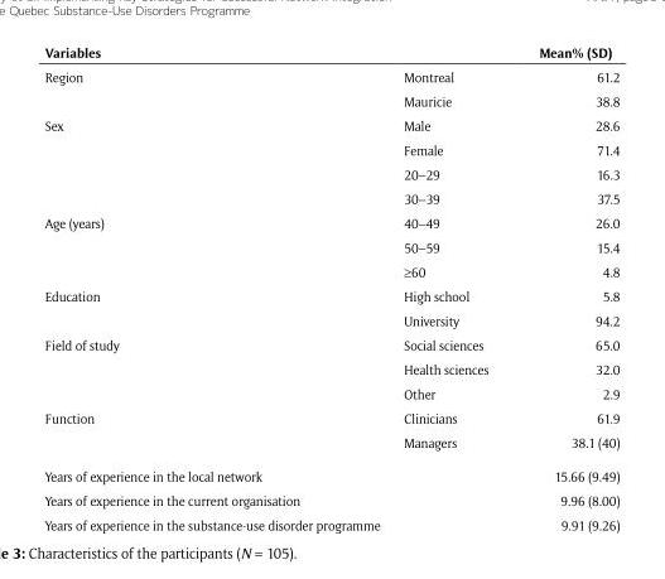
<table><thead><tr><td>Variables</td><td></td><td>Mean% (SD)</td></tr></thead><tbody><tr><td rowspan="2">Region</td><td>Montreal</td><td>61.2</td></tr><tr><td>Mauricie</td><td>38.8</td></tr><tr><td rowspan="4">Sex</td><td>Male</td><td>28.6</td></tr><tr><td>Female</td><td>71.4</td></tr><tr><td>20–29</td><td>16.3</td></tr><tr><td>30–39</td><td>37.5</td></tr><tr><td rowspan="3">Age (years)</td><td>40–49</td><td>26.0</td></tr><tr><td>50–59</td><td>15.4</td></tr><tr><td>≥60</td><td>4.8</td></tr><tr><td rowspan="2">Education</td><td>High school</td><td>5.8</td></tr><tr><td>University</td><td>94.2</td></tr><tr><td rowspan="3">Field of study</td><td>Social sciences</td><td>65.0</td></tr><tr><td>Health sciences</td><td>32.0</td></tr><tr><td>Other</td><td>2.9</td></tr><tr><td rowspan="2">Function</td><td>Clinicians</td><td>61.9</td></tr><tr><td>Managers</td><td>38.1 (40)</td></tr><tr><td>Years of experience in the local network</td><td></td><td>15.66 (9.49)</td></tr><tr><td>Years of experience in the current organisation</td><td></td><td>9.96 (8.00)</td></tr><tr><td>Years of experience in the substance-use disorder programme</td><td></td><td>9.91 (9.26)</td></tr></tbody></table>